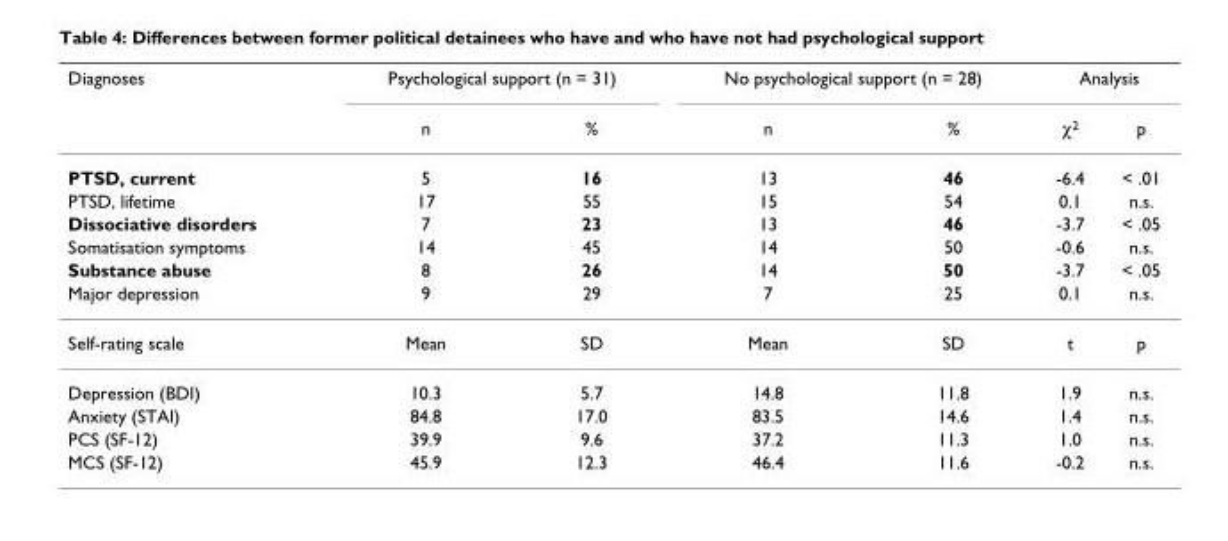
<table><thead><tr><td rowspan="2">Diagnoses</td><td colspan="2">Psychological support (n = 31)</td><td colspan="2">No psychological support (n = 28)</td><td colspan="2">Analysis</td></tr><tr><td>n</td><td>%</td><td>n</td><td>%</td><td>χ<sup>2</sup></td><td>p</td></tr></thead><tbody><tr><td>PTSD, current</td><td>5</td><td>16</td><td>13</td><td>46</td><td>-6.4</td><td>&lt; .01</td></tr><tr><td>PTSD, lifetime</td><td>17</td><td>55</td><td>15</td><td>54</td><td>0.1</td><td>n.s.</td></tr><tr><td>Dissociative disorders</td><td>7</td><td>23</td><td>13</td><td>46</td><td>-3.7</td><td>&lt; .05</td></tr><tr><td>Somatisation symptoms</td><td>14</td><td>45</td><td>14</td><td>50</td><td>-0.6</td><td>n.s.</td></tr><tr><td>Substance abuse</td><td>8</td><td>26</td><td>14</td><td>50</td><td>-3.7</td><td>&lt; .05</td></tr><tr><td>Major depression</td><td>9</td><td>29</td><td>7</td><td>25</td><td>0.1</td><td>n.s.</td></tr><tr><td>Self-rating scale</td><td>Mean</td><td>SD</td><td>Mean</td><td>SD</td><td>t</td><td>p</td></tr><tr><td>Depression (BDI)</td><td>10.3</td><td>5.7</td><td>14.8</td><td>11.8</td><td>1.9</td><td>n.s.</td></tr><tr><td>Anxiety (STAI)</td><td>84.8</td><td>17.0</td><td>83.5</td><td>14.6</td><td>1.4</td><td>n.s.</td></tr><tr><td>PCS (SF-12)</td><td>39.9</td><td>9.6</td><td>37.2</td><td>11.3</td><td>1.0</td><td>n.s.</td></tr><tr><td>MCS (SF-12)</td><td>45.9</td><td>12.3</td><td>46.4</td><td>11.6</td><td>-0.2</td><td>n.s.</td></tr></tbody></table>